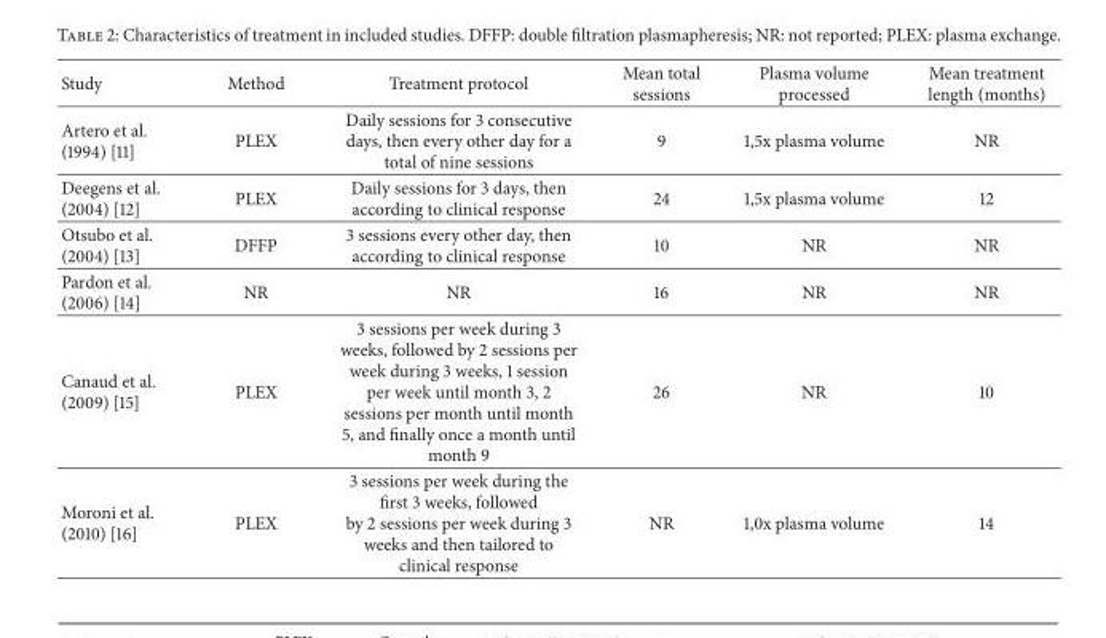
<table><thead><tr><td>Study</td><td>Method</td><td>Treatment protocol</td><td>Mean total sessions</td><td>Plasma volume processed</td><td>Mean treatment length (months)</td></tr></thead><tbody><tr><td>Artero et al. (1994) [11]</td><td>PLEX</td><td>Daily sessions for 3 consecutive days, then every other day for a total of nine sessions</td><td>9</td><td>1,5x plasma volume</td><td>NR</td></tr><tr><td>Deegens et al. (2004) [12]</td><td>PLEX</td><td>Daily sessions for 3 days, then according to clinical response</td><td>24</td><td>1,5x plasma volume</td><td>12</td></tr><tr><td>Otsubo et al. (2004) [13]</td><td>DFFP</td><td>3 sessions every other day, then according to clinical response</td><td>10</td><td>NR</td><td>NR</td></tr><tr><td>Pardon et al. (2006) [14]</td><td>NR</td><td>NR</td><td>16</td><td>NR</td><td>NR</td></tr><tr><td>Canaud et al. (2009) [15]</td><td>PLEX</td><td>3 sessions per week during 3 weeks, followed by 2 sessions per week during 3 weeks, 1 session per week until month 3, 2 sessions per month until month 5, and finally once a month until month 9</td><td>26</td><td>NR</td><td>10</td></tr><tr><td>Moroni et al. (2010) [16]</td><td>PLEX</td><td>3 sessions per week during the first 3 weeks, followed by 2 sessions per week during 3 weeks and then tailored to clinical response</td><td>NR</td><td>1,0x plasma volume</td><td>14</td></tr></tbody></table>